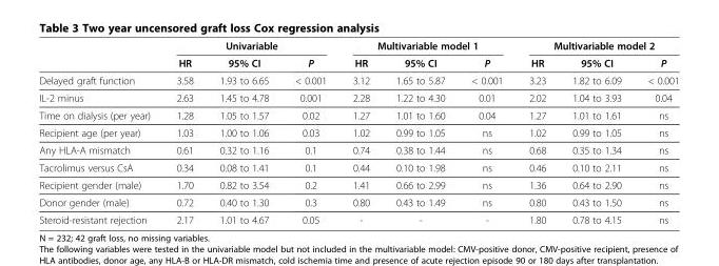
<table><thead><tr><td rowspan="2"></td><td colspan="3">Univariable</td><td colspan="3">Multivariable model 1</td><td colspan="3">Multivariable model 2</td></tr><tr><td>HR</td><td>95% CI</td><td>P</td><td>HR</td><td>95% CI</td><td>P</td><td>HR</td><td>95% CI</td><td>P</td></tr></thead><tbody><tr><td>Delayed graft function</td><td>3.58</td><td>1.93 to 6.65</td><td>&lt; 0.001</td><td>3.12</td><td>1.65 to 5.87</td><td>&lt; 0.001</td><td>3.23</td><td>1.82 to 6.09</td><td>&lt; 0.001</td></tr><tr><td>IL-2 minus</td><td>2.63</td><td>1.45 to 4.78</td><td>0.001</td><td>2.28</td><td>1.22 to 4.30</td><td>0.01</td><td>2.02</td><td>1.04 to 3.93</td><td>0.04</td></tr><tr><td>Time on dialysis (per year)</td><td>1.28</td><td>1.05 to 1.57</td><td>0.02</td><td>1.27</td><td>1.01 to 1.60</td><td>0.04</td><td>1.27</td><td>1.01 to 1.61</td><td>ns</td></tr><tr><td>Recipient age (per year)</td><td>1.03</td><td>1.00 to 1.06</td><td>0.03</td><td>1.02</td><td>0.99 to 1.05</td><td>ns</td><td>1.02</td><td>0.99 to 1.05</td><td>ns</td></tr><tr><td>Any HLA-A mismatch</td><td>0.61</td><td>0.32 to 1.16</td><td>0.1</td><td>0.74</td><td>0.38 to 1.44</td><td>ns</td><td>0.68</td><td>0.35 to 1.34</td><td>ns</td></tr><tr><td>Tacrolimus versus CsA</td><td>0.34</td><td>0.08 to 1.41</td><td>0.1</td><td>0.44</td><td>0.10 to 1.98</td><td>ns</td><td>0.46</td><td>0.10 to 2.11</td><td>ns</td></tr><tr><td>Recipient gender (male)</td><td>1.70</td><td>0.82 to 3.54</td><td>0.2</td><td>1.41</td><td>0.66 to 2.99</td><td>ns</td><td>1.36</td><td>0.64 to 2.90</td><td>ns</td></tr><tr><td>Donor gender (male)</td><td>0.72</td><td>0.40 to 1.30</td><td>0.3</td><td>0.80</td><td>0.43 to 1.49</td><td>ns</td><td>0.80</td><td>0.43 to 1.50</td><td>ns</td></tr><tr><td>Steroid-resistant rejection</td><td>2.17</td><td>1.01 to 4.67</td><td>0.05</td><td>-</td><td>-</td><td>-</td><td>1.80</td><td>0.78 to 4.15</td><td>ns</td></tr></tbody></table>